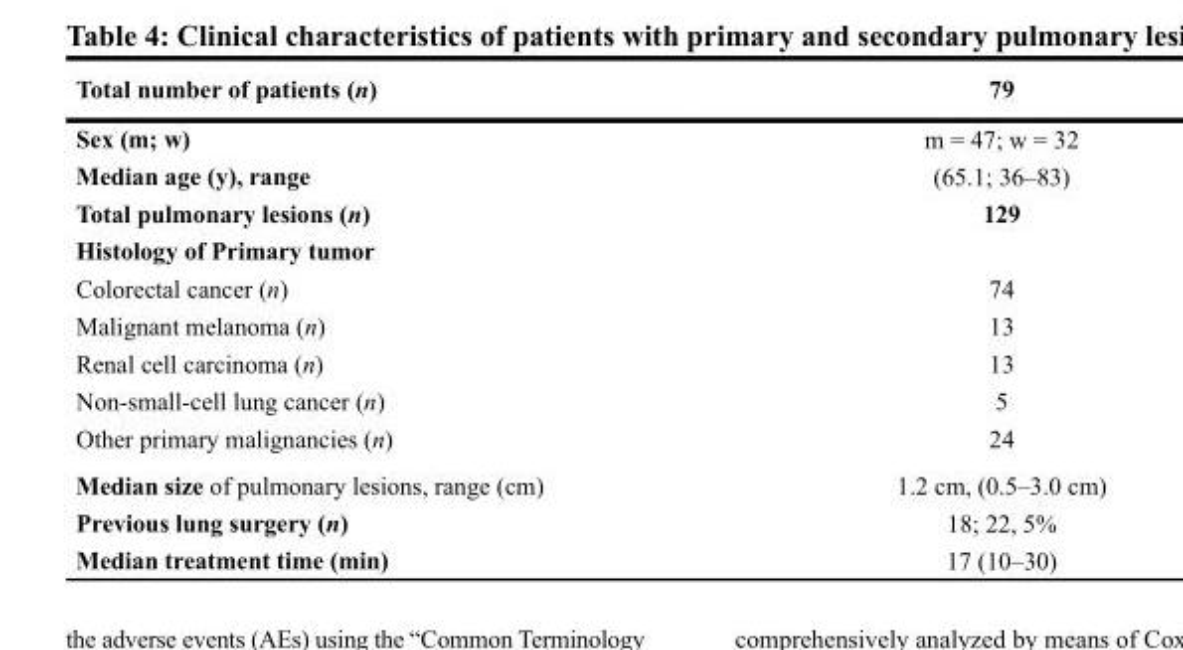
<table><thead><tr><td>Total number of patients (n)</td><td>79</td></tr></thead><tbody><tr><td>Sex (m; w)</td><td>m = 47; w = 32</td></tr><tr><td>Median age (y), range</td><td>(65.1; 36–83)</td></tr><tr><td>Total pulmonary lesions (n)</td><td>129</td></tr><tr><td colspan="2">Histology of Primary tumor</td></tr><tr><td>Colorectal cancer (n)</td><td>74</td></tr><tr><td>Malignant melanoma (n)</td><td>13</td></tr><tr><td>Renal cell carcinoma (n)</td><td>13</td></tr><tr><td>Non-small-cell lung cancer (n)</td><td>5</td></tr><tr><td>Other primary malignancies (n)</td><td>24</td></tr><tr><td>Median size of pulmonary lesions, range (cm)</td><td>1.2 cm, (0.5–3.0 cm)</td></tr><tr><td>Previous lung surgery (n)</td><td>18; 22, 5%</td></tr><tr><td>Median treatment time (min)</td><td>17 (10–30)</td></tr></tbody></table>